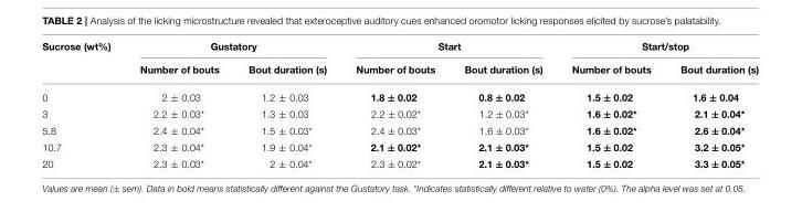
<table><thead><tr><td rowspan="2">Sucrose (wt%)</td><td colspan="2">Gustatory</td><td colspan="2">Start</td><td colspan="2">Start/stop</td></tr><tr><td>Number of bouts</td><td>Bout duration (s)</td><td>Number of bouts</td><td>Bout duration (s)</td><td>Number of bouts</td><td>Bout duration (s)</td></tr></thead><tbody><tr><td>0</td><td>2 ± 0.03</td><td>1.2 ± 0.03</td><td>1.8 ± 0.02</td><td>0.8 ± 0.02</td><td>1.5 ± 0.02</td><td>1.6 ± 0.04</td></tr><tr><td>3</td><td>2.2 ± 0.03*</td><td>1.3 ± 0.03</td><td>2.2 ± 0.02*</td><td>1.2 ± 0.03*</td><td>1.6 ± 0.02*</td><td>2.1 ± 0.04*</td></tr><tr><td>5.8</td><td>2.4 ± 0.04*</td><td>1.5 ± 0.03*</td><td>2.4 ± 0.03*</td><td>1.6 ± 0.03*</td><td>1.6 ± 0.02*</td><td>2.6 ± 0.04*</td></tr><tr><td>10.7</td><td>2.3 ± 0.04*</td><td>1.9 ± 0.04*</td><td>2.1 ± 0.02*</td><td>2.1 ± 0.03*</td><td>1.5 ± 0.02</td><td>3.2 ± 0.05*</td></tr><tr><td>20</td><td>2.3 ± 0.03*</td><td>2 ± 0.04*</td><td>2.3 ± 0.02*</td><td>2.1 ± 0.03*</td><td>1.5 ± 0.02</td><td>3.3 ± 0.05*</td></tr></tbody></table>